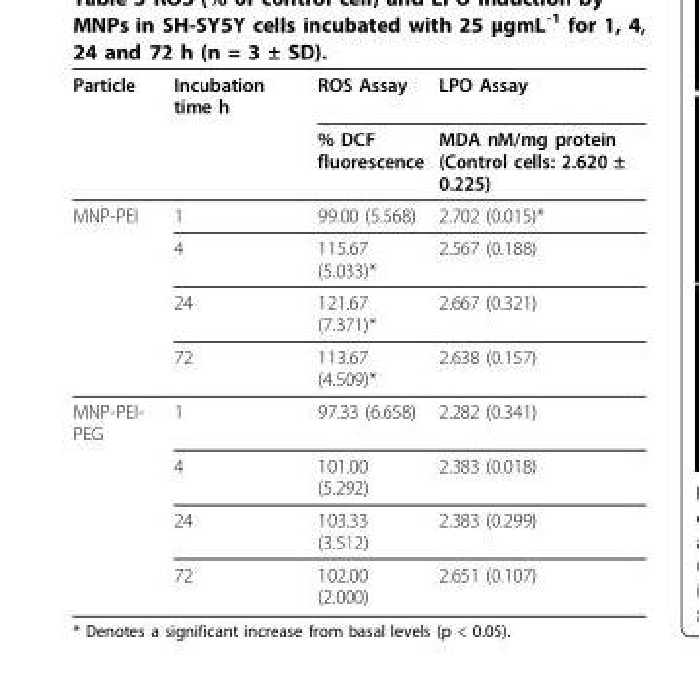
<table><thead><tr><td rowspan="2">Particle</td><td rowspan="2">Incubation time h</td><td rowspan="2">ROS Assay % DCF fluorescence</td><td rowspan="2">LPO Assay MDA nM/mg protein (Control cells: 2.620 ± 0.225)</td></tr><tr></tr></thead><tbody><tr><td rowspan="4">MNP-PEI</td><td>1</td><td>99.00 (5.568)</td><td>2.702 (0.015)*</td></tr><tr><td>4</td><td>115.67 (5.033)*</td><td>2.567 (0.188)</td></tr><tr><td>24</td><td>121.67 (7.371)*</td><td>2.667 (0.321)</td></tr><tr><td>72</td><td>113.67 (4.509)*</td><td>2.638 (0.157)</td></tr><tr><td rowspan="4">MNP-PEI- PEG</td><td>1</td><td>97.33 (6.658)</td><td>2.282 (0.341)</td></tr><tr><td>4</td><td>101.00 (5.292)</td><td>2.383 (0.018)</td></tr><tr><td>24</td><td>103.33 (3.512)</td><td>2.383 (0.299)</td></tr><tr><td>72</td><td>102.00 (2.000)</td><td>2.651 (0.107)</td></tr></tbody></table>